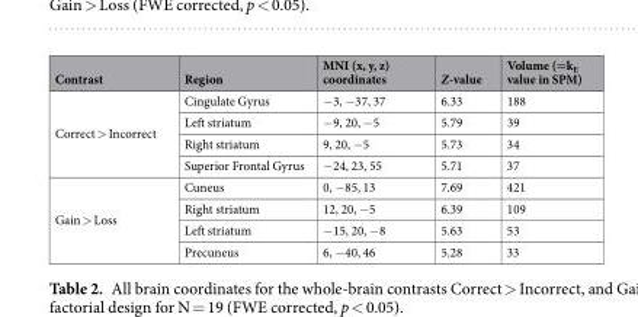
<table><thead><tr><td>Contrast</td><td>Region</td><td>MNI (x, y, z) coordinates</td><td>Z-value</td><td>Volume (=k<sub>E</sub> value in SPM)</td></tr></thead><tbody><tr><td rowspan="4">Correct &gt; Incorrect</td><td>Cingulate Gyrus</td><td>−3, −37, 37</td><td>6.33</td><td>188</td></tr><tr><td>Left striatum</td><td>−9, 20, −5</td><td>5.79</td><td>39</td></tr><tr><td>Right striatum</td><td>9, 20, −5</td><td>5.73</td><td>34</td></tr><tr><td>Superior Frontal Gyrus</td><td>−24, 23, 55</td><td>5.71</td><td>37</td></tr><tr><td rowspan="4">Gain &gt; Loss</td><td>Cuneus</td><td>0, −85, 13</td><td>7.69</td><td>421</td></tr><tr><td>Right striatum</td><td>12, 20, −5</td><td>6.39</td><td>109</td></tr><tr><td>Left striatum</td><td>−15, 20, −8</td><td>5.63</td><td>53</td></tr><tr><td>Precuneus</td><td>6, −40, 46</td><td>5.28</td><td>33</td></tr></tbody></table>